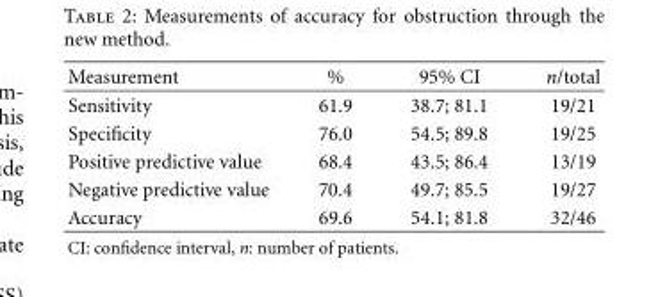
<table><thead><tr><td>Measurement</td><td>%</td><td>95% CI</td><td>n/total</td></tr></thead><tbody><tr><td>Sensitivity</td><td>61.9</td><td>38.7; 81.1</td><td>19/21</td></tr><tr><td>Specificity</td><td>76.0</td><td>54.5; 89.8</td><td>19/25</td></tr><tr><td>Positive predictive value</td><td>68.4</td><td>43.5; 86.4</td><td>13/19</td></tr><tr><td>Negative predictive value</td><td>70.4</td><td>49.7; 85.5</td><td>19/27</td></tr><tr><td>Accuracy</td><td>69.6</td><td>54.1; 81.8</td><td>32/46</td></tr></tbody></table>